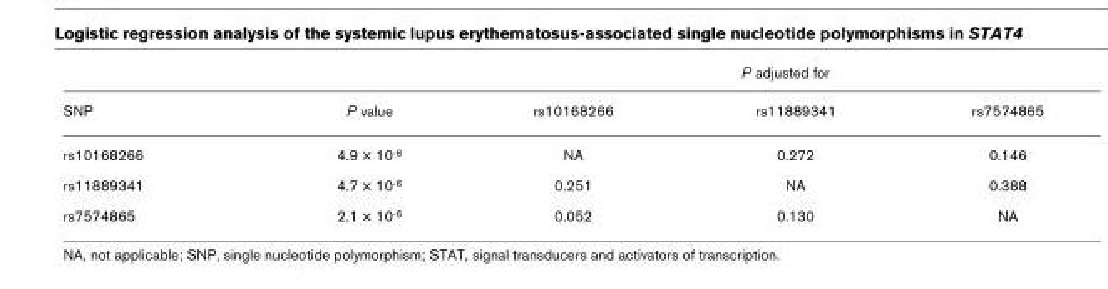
<table><thead><tr><td rowspan="2">SNP</td><td rowspan="2">P value</td><td colspan="3">P adjusted for</td></tr><tr><td>rs10168266</td><td>rs11889341</td><td>rs7574865</td></tr></thead><tbody><tr><td>rs10168266</td><td>4.9 × 10<sup>-6</sup></td><td>NA</td><td>0.272</td><td>0.146</td></tr><tr><td>rs11889341</td><td>4.7 × 10<sup>-6</sup></td><td>0.251</td><td>NA</td><td>0.388</td></tr><tr><td>rs7574865</td><td>2.1 × 10<sup>-6</sup></td><td>0.052</td><td>0.130</td><td>NA</td></tr></tbody></table>